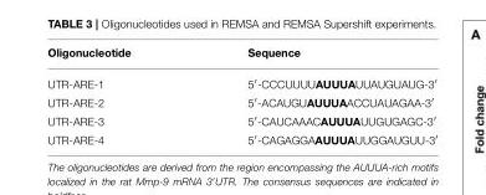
<table><thead><tr><td>Oligonucleotide</td><td>Sequence</td></tr></thead><tbody><tr><td>UTR-ARE-1</td><td>5′-CCCUUUUAUUUAUUAUGUAUG-3′</td></tr><tr><td>UTR-ARE-2</td><td>5′-ACAUGUAUUUAACCUAUAGAA-3′</td></tr><tr><td>UTR-ARE-3</td><td>5′-CAUCAAACAUUUAUUGUGAGC-3′</td></tr><tr><td>UTR-ARE-4</td><td>5′-CAGAGGAAUUUAUUGGAUGUU-3′</td></tr></tbody></table>